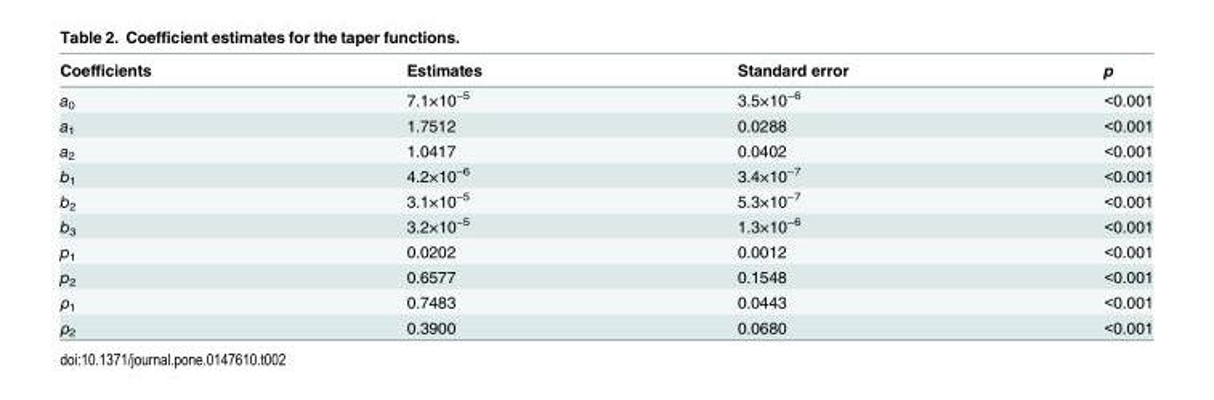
<table><thead><tr><td>Coefficients</td><td>Estimates</td><td>Standard error</td><td>p</td></tr></thead><tbody><tr><td>a<sub>0</sub></td><td>7.1×10<sup>−5</sup></td><td>3.5×10<sup>−6</sup></td><td>&lt;0.001</td></tr><tr><td>a<sub>1</sub></td><td>1.7512</td><td>0.0288</td><td>&lt;0.001</td></tr><tr><td>a<sub>2</sub></td><td>1.0417</td><td>0.0402</td><td>&lt;0.001</td></tr><tr><td>b<sub>1</sub></td><td>4.2×10<sup>−6</sup></td><td>3.4×10<sup>−7</sup></td><td>&lt;0.001</td></tr><tr><td>b<sub>2</sub></td><td>3.1×10<sup>−5</sup></td><td>5.3×10<sup>−7</sup></td><td>&lt;0.001</td></tr><tr><td>b<sub>3</sub></td><td>3.2×10<sup>−5</sup></td><td>1.3×10<sup>−6</sup></td><td>&lt;0.001</td></tr><tr><td>p<sub>1</sub></td><td>0.0202</td><td>0.0012</td><td>&lt;0.001</td></tr><tr><td>p<sub>2</sub></td><td>0.6577</td><td>0.1548</td><td>&lt;0.001</td></tr><tr><td>ρ<sub>1</sub></td><td>0.7483</td><td>0.0443</td><td>&lt;0.001</td></tr><tr><td>ρ<sub>2</sub></td><td>0.3900</td><td>0.0680</td><td>&lt;0.001</td></tr></tbody></table>